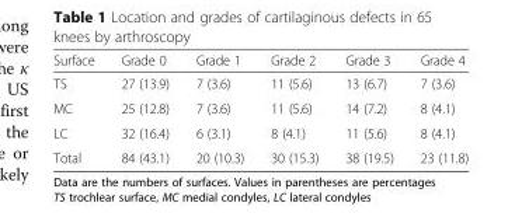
<table><thead><tr><td>Surface</td><td>Grade 0</td><td>Grade 1</td><td>Grade 2</td><td>Grade 3</td><td>Grade 4</td></tr></thead><tbody><tr><td>TS</td><td>27 (13.9)</td><td>7 (3.6)</td><td>11 (5.6)</td><td>13 (6.7)</td><td>7 (3.6)</td></tr><tr><td>MC</td><td>25 (12.8)</td><td>7 (3.6)</td><td>11 (5.6)</td><td>14 (7.2)</td><td>8 (4.1)</td></tr><tr><td>LC</td><td>32 (16.4)</td><td>6 (3.1)</td><td>8 (4.1)</td><td>11 (5.6)</td><td>8 (4.1)</td></tr><tr><td>Total</td><td>84 (43.1)</td><td>20 (10.3)</td><td>30 (15.3)</td><td>38 (19.5)</td><td>23 (11.8)</td></tr></tbody></table>